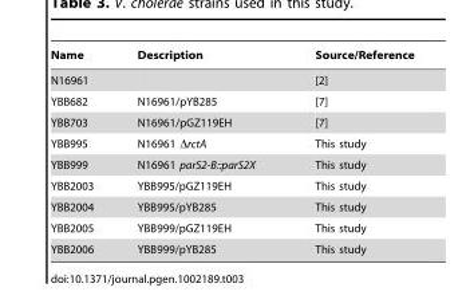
<table><thead><tr><td>Name</td><td>Description</td><td>Source/Reference</td></tr></thead><tbody><tr><td>N16961</td><td></td><td>[2]</td></tr><tr><td>YBB682</td><td>N16961/pYB285</td><td>[7]</td></tr><tr><td>YBB703</td><td>N16961/pGZ119EH</td><td>[7]</td></tr><tr><td>YBB995</td><td>N16961 ΔrctA</td><td>This study</td></tr><tr><td>YBB999</td><td>N16961 parS2-B::parS2X</td><td>This study</td></tr><tr><td>YBB2003</td><td>YBB995/pGZ119EH</td><td>This study</td></tr><tr><td>YBB2004</td><td>YBB995/pYB285</td><td>This study</td></tr><tr><td>YBB2005</td><td>YBB999/pGZ119EH</td><td>This study</td></tr><tr><td>YBB2006</td><td>YBB999/pYB285</td><td>This study</td></tr></tbody></table>